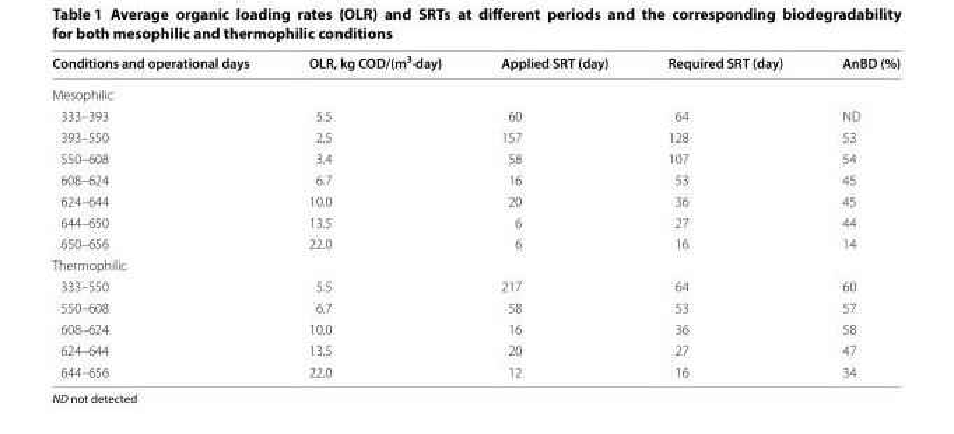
<table><thead><tr><td>Conditions and operational days</td><td>OLR, kg COD/(m<sup>3</sup>∙day)</td><td>Applied SRT (day)</td><td>Required SRT (day)</td><td>AnBD (%)</td></tr></thead><tbody><tr><td colspan="5">Mesophilic</td></tr><tr><td>333–393</td><td>5.5</td><td>60</td><td>64</td><td>ND</td></tr><tr><td>393–550</td><td>2.5</td><td>157</td><td>128</td><td>53</td></tr><tr><td>550–608</td><td>3.4</td><td>58</td><td>107</td><td>54</td></tr><tr><td>608–624</td><td>6.7</td><td>16</td><td>53</td><td>45</td></tr><tr><td>624–644</td><td>10.0</td><td>20</td><td>36</td><td>45</td></tr><tr><td>644–650</td><td>13.5</td><td>6</td><td>27</td><td>44</td></tr><tr><td>650–656</td><td>22.0</td><td>6</td><td>16</td><td>14</td></tr><tr><td colspan="5">Thermophilic</td></tr><tr><td>333–550</td><td>5.5</td><td>217</td><td>64</td><td>60</td></tr><tr><td>550–608</td><td>6.7</td><td>58</td><td>53</td><td>57</td></tr><tr><td>608–624</td><td>10.0</td><td>16</td><td>36</td><td>58</td></tr><tr><td>624–644</td><td>13.5</td><td>20</td><td>27</td><td>47</td></tr><tr><td>644–656</td><td>22.0</td><td>12</td><td>16</td><td>34</td></tr></tbody></table>